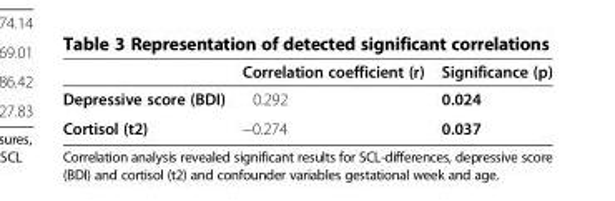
<table><thead><tr><td></td><td>Correlation coefficient (r)</td><td>Significance (p)</td></tr></thead><tbody><tr><td>Depressive score (BDI)</td><td>0.292</td><td>0.024</td></tr><tr><td>Cortisol (t2)</td><td>−0.274</td><td>0.037</td></tr></tbody></table>